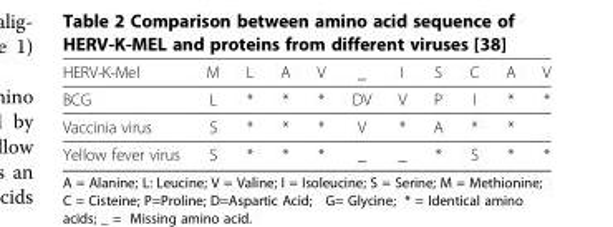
<table><tbody><tr><td>HERV-K-Mel</td><td>M</td><td>L</td><td>A</td><td>V</td><td>_</td><td>I</td><td>S</td><td>C</td><td>A</td><td>V</td></tr><tr><td>BCG</td><td>L</td><td>*</td><td>*</td><td>*</td><td>DV</td><td>V</td><td>P</td><td>I</td><td>*</td><td>*</td></tr><tr><td>Vaccinia virus</td><td>S</td><td>*</td><td>*</td><td>*</td><td>V</td><td>*</td><td>A</td><td>*</td><td>*</td><td></td></tr><tr><td>Yellow fever virus</td><td>S</td><td>*</td><td>*</td><td>*</td><td>_</td><td>_</td><td>*</td><td>S</td><td>*</td><td>*</td></tr></tbody></table>